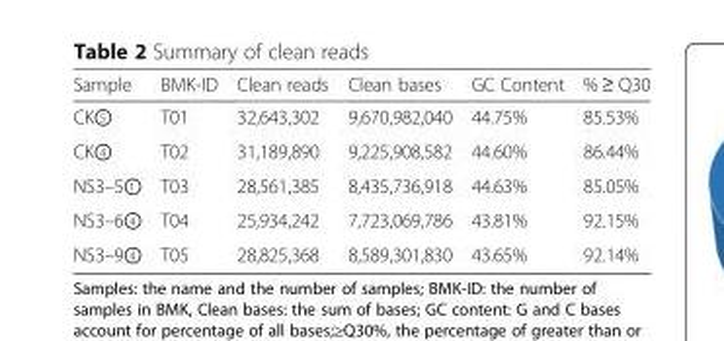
<table><thead><tr><td>Sample</td><td>BMK-ID</td><td>Clean reads</td><td>Clean bases</td><td>GC Content</td><td>% ≥ Q30</td></tr></thead><tbody><tr><td>CK⑤</td><td>T01</td><td>32,643,302</td><td>9,670,982,040</td><td>44.75%</td><td>85.53%</td></tr><tr><td>CK④</td><td>T02</td><td>31,189,890</td><td>9,225,908,582</td><td>44.60%</td><td>86.44%</td></tr><tr><td>NS3–5①</td><td>T03</td><td>28,561,385</td><td>8,435,736,918</td><td>44.63%</td><td>85.05%</td></tr><tr><td>NS3–6④</td><td>T04</td><td>25,934,242</td><td>7,723,069,786</td><td>43.81%</td><td>92.15%</td></tr><tr><td>NS3–9④</td><td>T05</td><td>28,825,368</td><td>8,589,301,830</td><td>43.65%</td><td>92.14%</td></tr></tbody></table>